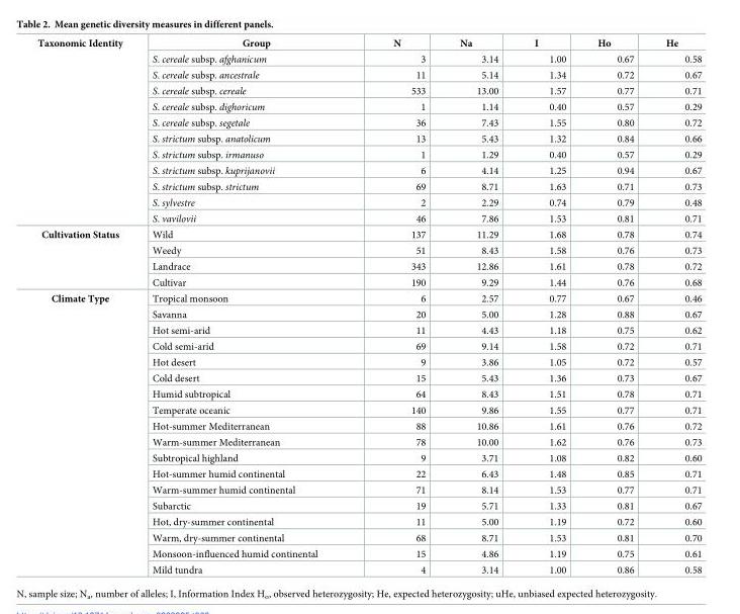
<table><tbody><tr><td rowspan="12">Taxonomic Identity</td><td>Group</td><td>N</td><td>Na</td><td>I</td><td>Ho</td><td>He</td></tr><tr><td>S. cereale subsp. afghanicum</td><td>3</td><td>3.14</td><td>1.00</td><td>0.67</td><td>0.58</td></tr><tr><td>S. cereale subsp. ancestrale</td><td>11</td><td>5.14</td><td>1.34</td><td>0.72</td><td>0.67</td></tr><tr><td>S. cereale subsp. cereale</td><td>533</td><td>13.00</td><td>1.57</td><td>0.77</td><td>0.71</td></tr><tr><td>S. cereale subsp. dighoricum</td><td>1</td><td>1.14</td><td>0.40</td><td>0.57</td><td>0.29</td></tr><tr><td>S. cereale subsp. segetale</td><td>36</td><td>7.43</td><td>1.55</td><td>0.80</td><td>0.72</td></tr><tr><td>S. strictum subsp. anatolicum</td><td>13</td><td>5.43</td><td>1.32</td><td>0.84</td><td>0.66</td></tr><tr><td>S. strictum subsp. irmanuso</td><td>1</td><td>1.29</td><td>0.40</td><td>0.57</td><td>0.29</td></tr><tr><td>S. strictum subsp. kuprijanovii</td><td>6</td><td>4.14</td><td>1.25</td><td>0.94</td><td>0.67</td></tr><tr><td>S. strictum subsp. strictum</td><td>69</td><td>8.71</td><td>1.63</td><td>0.71</td><td>0.73</td></tr><tr><td>S. sylvestre</td><td>2</td><td>2.29</td><td>0.74</td><td>0.79</td><td>0.48</td></tr><tr><td>S. vavilovii</td><td>46</td><td>7.86</td><td>1.53</td><td>0.81</td><td>0.71</td></tr><tr><td rowspan="4">Cultivation Status</td><td>Wild</td><td>137</td><td>11.29</td><td>1.68</td><td>0.78</td><td>0.74</td></tr><tr><td>Weedy</td><td>51</td><td>8.43</td><td>1.58</td><td>0.76</td><td>0.73</td></tr><tr><td>Landrace</td><td>343</td><td>12.86</td><td>1.61</td><td>0.78</td><td>0.72</td></tr><tr><td>Cultivar</td><td>190</td><td>9.29</td><td>1.44</td><td>0.76</td><td>0.68</td></tr><tr><td rowspan="18">Climate Type</td><td>Tropical monsoon</td><td>6</td><td>2.57</td><td>0.77</td><td>0.67</td><td>0.46</td></tr><tr><td>Savanna</td><td>20</td><td>5.00</td><td>1.28</td><td>0.88</td><td>0.67</td></tr><tr><td>Hot semi-arid</td><td>11</td><td>4.43</td><td>1.18</td><td>0.75</td><td>0.62</td></tr><tr><td>Cold semi-arid</td><td>69</td><td>9.14</td><td>1.58</td><td>0.72</td><td>0.71</td></tr><tr><td>Hot desert</td><td>9</td><td>3.86</td><td>1.05</td><td>0.72</td><td>0.57</td></tr><tr><td>Cold desert</td><td>15</td><td>5.43</td><td>1.36</td><td>0.73</td><td>0.67</td></tr><tr><td>Humid subtropical</td><td>64</td><td>8.43</td><td>1.51</td><td>0.78</td><td>0.71</td></tr><tr><td>Temperate oceanic</td><td>140</td><td>9.86</td><td>1.55</td><td>0.77</td><td>0.71</td></tr><tr><td>Hot-summer Mediterranean</td><td>88</td><td>10.86</td><td>1.61</td><td>0.76</td><td>0.72</td></tr><tr><td>Warm-summer Mediterranean</td><td>78</td><td>10.00</td><td>1.62</td><td>0.76</td><td>0.73</td></tr><tr><td>Subtropical highland</td><td>9</td><td>3.71</td><td>1.08</td><td>0.82</td><td>0.60</td></tr><tr><td>Hot-summer humid continental</td><td>22</td><td>6.43</td><td>1.48</td><td>0.85</td><td>0.71</td></tr><tr><td>Warm-summer humid continental</td><td>71</td><td>8.14</td><td>1.53</td><td>0.77</td><td>0.71</td></tr><tr><td>Subarctic</td><td>19</td><td>5.71</td><td>1.33</td><td>0.81</td><td>0.67</td></tr><tr><td>Hot, dry-summer continental</td><td>11</td><td>5.00</td><td>1.19</td><td>0.72</td><td>0.60</td></tr><tr><td>Warm, dry-summer continental</td><td>68</td><td>8.71</td><td>1.53</td><td>0.81</td><td>0.70</td></tr><tr><td>Monsoon-influenced humid continental</td><td>15</td><td>4.86</td><td>1.19</td><td>0.75</td><td>0.61</td></tr><tr><td>Mild tundra</td><td>4</td><td>3.14</td><td>1.00</td><td>0.86</td><td>0.58</td></tr></tbody></table>